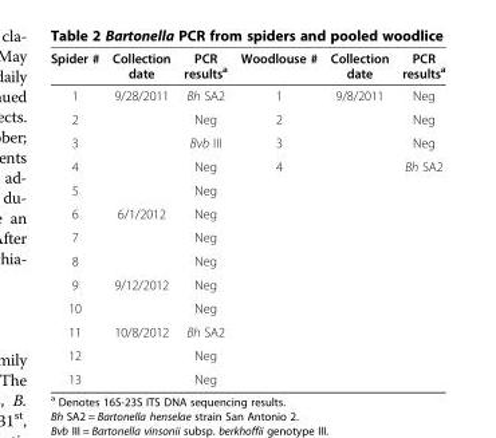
<table><thead><tr><td>Spider #</td><td>Collection date</td><td>PCR results<sup>a</sup></td><td>Woodlouse #</td><td>Collection date</td><td>PCR results<sup>a</sup></td></tr></thead><tbody><tr><td>1</td><td>9/28/2011</td><td>Bh SA2</td><td>1</td><td>9/8/2011</td><td>Neg</td></tr><tr><td>2</td><td></td><td>Neg</td><td>2</td><td></td><td>Neg</td></tr><tr><td>3</td><td></td><td>Bvb III</td><td>3</td><td></td><td>Neg</td></tr><tr><td>4</td><td></td><td>Neg</td><td>4</td><td></td><td>Bh SA2</td></tr><tr><td>5</td><td></td><td>Neg</td><td></td><td></td><td></td></tr><tr><td>6</td><td>6/1/2012</td><td>Neg</td><td></td><td></td><td></td></tr><tr><td>7</td><td></td><td>Neg</td><td></td><td></td><td></td></tr><tr><td>8</td><td></td><td>Neg</td><td></td><td></td><td></td></tr><tr><td>9</td><td>9/12/2012</td><td>Neg</td><td></td><td></td><td></td></tr><tr><td>10</td><td></td><td>Neg</td><td></td><td></td><td></td></tr><tr><td>11</td><td>10/8/2012</td><td>Bh SA2</td><td></td><td></td><td></td></tr><tr><td>12</td><td></td><td>Neg</td><td></td><td></td><td></td></tr><tr><td>13</td><td></td><td>Neg</td><td></td><td></td><td></td></tr></tbody></table>